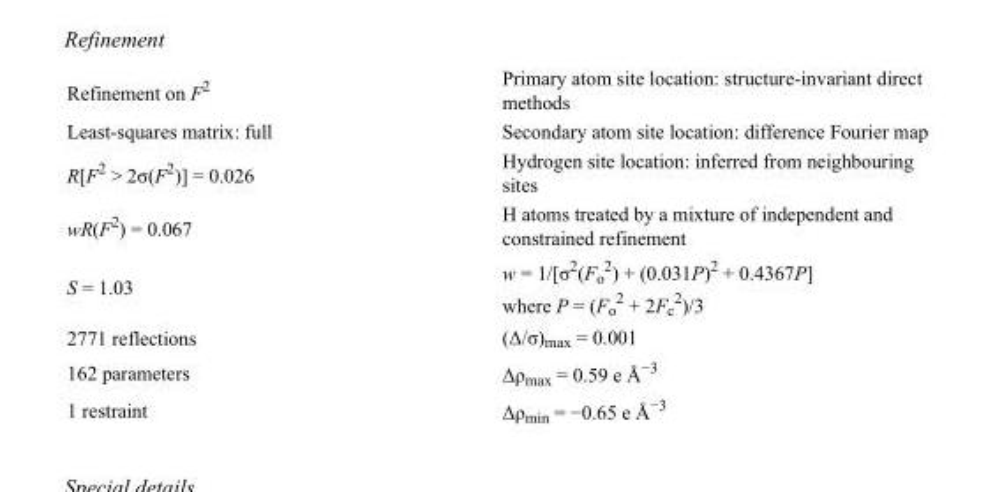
<table><tbody><tr><td>Refinement on F<sup>2</sup></td><td>Primary atom site location: structure-invariant direct methods</td></tr><tr><td>Least-squares matrix: full</td><td>Secondary atom site location: difference Fourier map</td></tr><tr><td>R[F<sup>2</sup> &gt; 2σ(F<sup>2</sup>)] = 0.026</td><td>Hydrogen site location: inferred from neighbouring sites</td></tr><tr><td>wR(F<sup>2</sup>) = 0.067</td><td>H atoms treated by a mixture of independent and constrained refinement</td></tr><tr><td>S = 1.03</td><td>w = 1/[σ<sup>2</sup>(F<sub>o</sub> <sup>2</sup>) + (0.031P)<sup>2</sup> + 0.4367P] where P = (F<sub>o</sub> <sup>2</sup> + 2F<sub>c</sub> <sup>2</sup>)/3</td></tr><tr><td>2771 reflections</td><td>(Δ/σ)<sub>max</sub> = 0.001</td></tr><tr><td>162 parameters</td><td>Δρ<sub>max</sub> = 0.59 e Å<sup>−3</sup></td></tr><tr><td>1 restraint</td><td>Δρ<sub>min</sub> = −0.65 e Å<sup>−3</sup></td></tr></tbody></table>